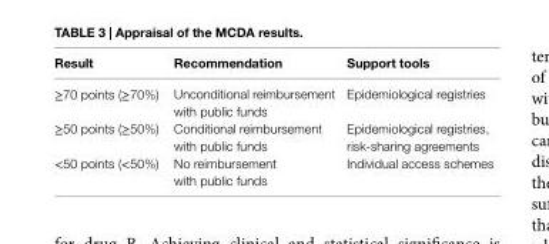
<table><thead><tr><td>result</td><td>recommendation</td><td>support tools</td></tr></thead><tbody><tr><td>≥70 points (≥70%)</td><td>Unconditional reimbursement with public funds</td><td>Epidemiological registries</td></tr><tr><td>≥50 points (≥50%)</td><td>Conditional reimbursement with public funds</td><td>Epidemiological registries, risk-sharing agreements</td></tr><tr><td>&lt;50 points (&lt;50%)</td><td>No reimbursement with public funds</td><td>Individual access schemes</td></tr></tbody></table>